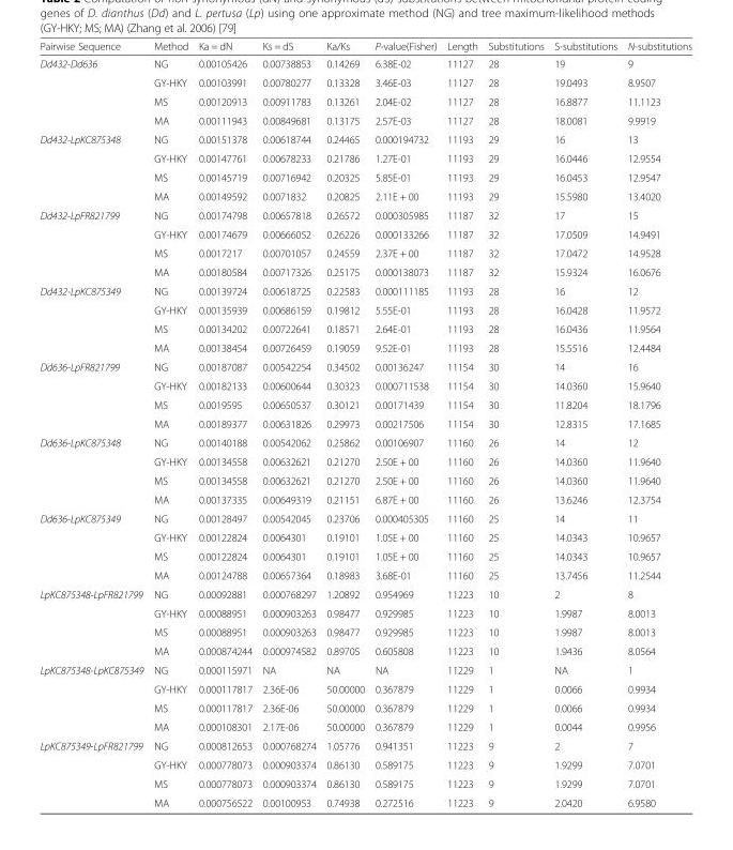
<table><thead><tr><td>Pairwise Sequence</td><td>Method</td><td>Ka = dN</td><td>Ks = dS</td><td>Ka/Ks</td><td>P-value(Fisher)</td><td>Length</td><td>Substitutions</td><td>S-substitutions</td><td>N-substitutions</td></tr></thead><tbody><tr><td rowspan="4">Dd432-Dd636</td><td>NG</td><td>0.00105426</td><td>0.00738853</td><td>0.14269</td><td>6.38E-02</td><td>11127</td><td>28</td><td>19</td><td>9</td></tr><tr><td>GY-HKY</td><td>0.00103991</td><td>0.00780277</td><td>0.13328</td><td>3.46E-03</td><td>11127</td><td>28</td><td>19.0493</td><td>8.9507</td></tr><tr><td>MS</td><td>0.00120913</td><td>0.00911783</td><td>0.13261</td><td>2.04E-02</td><td>11127</td><td>28</td><td>16.8877</td><td>11.1123</td></tr><tr><td>MA</td><td>0.00111943</td><td>0.00849681</td><td>0.13175</td><td>2.57E-03</td><td>11127</td><td>28</td><td>18.0081</td><td>9.9919</td></tr><tr><td rowspan="4">Dd432-LpKC875348</td><td>NG</td><td>0.00151378</td><td>0.00618744</td><td>0.24465</td><td>0.000194732</td><td>11193</td><td>29</td><td>16</td><td>13</td></tr><tr><td>GY-HKY</td><td>0.00147761</td><td>0.00678233</td><td>0.21786</td><td>1.27E-01</td><td>11193</td><td>29</td><td>16.0446</td><td>12.9554</td></tr><tr><td>MS</td><td>0.00145719</td><td>0.00716942</td><td>0.20325</td><td>5.85E-01</td><td>11193</td><td>29</td><td>16.0453</td><td>12.9547</td></tr><tr><td>MA</td><td>0.00149592</td><td>0.0071832</td><td>0.20825</td><td>2.11E + 00</td><td>11193</td><td>29</td><td>15.5980</td><td>13.4020</td></tr><tr><td rowspan="4">Dd432-LpFR821799</td><td>NG</td><td>0.00174798</td><td>0.00657818</td><td>0.26572</td><td>0.000305985</td><td>11187</td><td>32</td><td>17</td><td>15</td></tr><tr><td>GY-HKY</td><td>0.00174679</td><td>0.00666052</td><td>0.26226</td><td>0.000133266</td><td>11187</td><td>32</td><td>17.0509</td><td>14.9491</td></tr><tr><td>MS</td><td>0.0017217</td><td>0.00701057</td><td>0.24559</td><td>2.37E + 00</td><td>11187</td><td>32</td><td>17.0472</td><td>14.9528</td></tr><tr><td>MA</td><td>0.00180584</td><td>0.00717326</td><td>0.25175</td><td>0.000138073</td><td>11187</td><td>32</td><td>15.9324</td><td>16.0676</td></tr><tr><td rowspan="4">Dd432-LpKC875349</td><td>NG</td><td>0.00139724</td><td>0.00618725</td><td>0.22583</td><td>0.000111185</td><td>11193</td><td>28</td><td>16</td><td>12</td></tr><tr><td>GY-HKY</td><td>0.00135939</td><td>0.00686159</td><td>0.19812</td><td>5.55E-01</td><td>11193</td><td>28</td><td>16.0428</td><td>11.9572</td></tr><tr><td>MS</td><td>0.00134202</td><td>0.00722641</td><td>0.18571</td><td>2.64E-01</td><td>11193</td><td>28</td><td>16.0436</td><td>11.9564</td></tr><tr><td>MA</td><td>0.00138454</td><td>0.00726459</td><td>0.19059</td><td>9.52E-01</td><td>11193</td><td>28</td><td>15.5516</td><td>12.4484</td></tr><tr><td rowspan="4">Dd636-LpFR821799</td><td>NG</td><td>0.00187087</td><td>0.00542254</td><td>0.34502</td><td>0.00136247</td><td>11154</td><td>30</td><td>14</td><td>16</td></tr><tr><td>GY-HKY</td><td>0.00182133</td><td>0.00600644</td><td>0.30323</td><td>0.000711538</td><td>11154</td><td>30</td><td>14.0360</td><td>15.9640</td></tr><tr><td>MS</td><td>0.0019595</td><td>0.00650537</td><td>0.30121</td><td>0.00171439</td><td>11154</td><td>30</td><td>11.8204</td><td>18.1796</td></tr><tr><td>MA</td><td>0.00189377</td><td>0.00631826</td><td>0.29973</td><td>0.00217506</td><td>11154</td><td>30</td><td>12.8315</td><td>17.1685</td></tr><tr><td rowspan="4">Dd636-LpKC875348</td><td>NG</td><td>0.00140188</td><td>0.00542062</td><td>0.25862</td><td>0.00106907</td><td>11160</td><td>26</td><td>14</td><td>12</td></tr><tr><td>GY-HKY</td><td>0.00134558</td><td>0.00632621</td><td>0.21270</td><td>2.50E + 00</td><td>11160</td><td>26</td><td>14.0360</td><td>11.9640</td></tr><tr><td>MS</td><td>0.00134558</td><td>0.00632621</td><td>0.21270</td><td>2.50E + 00</td><td>11160</td><td>26</td><td>14.0360</td><td>11.9640</td></tr><tr><td>MA</td><td>0.00137335</td><td>0.00649319</td><td>0.21151</td><td>6.87E + 00</td><td>11160</td><td>26</td><td>13.6246</td><td>12.3754</td></tr><tr><td rowspan="4">Dd636-LpKC875349</td><td>NG</td><td>0.00128497</td><td>0.00542045</td><td>0.23706</td><td>0.000405305</td><td>11160</td><td>25</td><td>14</td><td>11</td></tr><tr><td>GY-HKY</td><td>0.00122824</td><td>0.0064301</td><td>0.19101</td><td>1.05E + 00</td><td>11160</td><td>25</td><td>14.0343</td><td>10.9657</td></tr><tr><td>MS</td><td>0.00122824</td><td>0.0064301</td><td>0.19101</td><td>1.05E + 00</td><td>11160</td><td>25</td><td>14.0343</td><td>10.9657</td></tr><tr><td>MA</td><td>0.00124788</td><td>0.00657364</td><td>0.18983</td><td>3.68E-01</td><td>11160</td><td>25</td><td>13.7456</td><td>11.2544</td></tr><tr><td rowspan="4">LpKC875348-LpFR821799</td><td>NG</td><td>0.00092881</td><td>0.000768297</td><td>1.20892</td><td>0.954969</td><td>11223</td><td>10</td><td>2</td><td>8</td></tr><tr><td>GY-HKY</td><td>0.00088951</td><td>0.000903263</td><td>0.98477</td><td>0.929985</td><td>11223</td><td>10</td><td>1.9987</td><td>8.0013</td></tr><tr><td>MS</td><td>0.00088951</td><td>0.000903263</td><td>0.98477</td><td>0.929985</td><td>11223</td><td>10</td><td>1.9987</td><td>8.0013</td></tr><tr><td>MA</td><td>0.000874244</td><td>0.000974582</td><td>0.89705</td><td>0.605808</td><td>11223</td><td>10</td><td>1.9436</td><td>8.0564</td></tr><tr><td rowspan="4">LpKC875348-LpKC875349</td><td>NG</td><td>0.000115971</td><td>NA</td><td>NA</td><td>NA</td><td>11229</td><td>1</td><td>NA</td><td>1</td></tr><tr><td>GY-HKY</td><td>0.000117817</td><td>2.36E-06</td><td>50.00000</td><td>0.367879</td><td>11229</td><td>1</td><td>0.0066</td><td>0.9934</td></tr><tr><td>MS</td><td>0.000117817</td><td>2.36E-06</td><td>50.00000</td><td>0.367879</td><td>11229</td><td>1</td><td>0.0066</td><td>0.9934</td></tr><tr><td>MA</td><td>0.000108301</td><td>2.17E-06</td><td>50.00000</td><td>0.367879</td><td>11229</td><td>1</td><td>0.0044</td><td>0.9956</td></tr><tr><td rowspan="4">LpKC875349-LpFR821799</td><td>NG</td><td>0.000812653</td><td>0.000768274</td><td>1.05776</td><td>0.941351</td><td>11223</td><td>9</td><td>2</td><td>7</td></tr><tr><td>GY-HKY</td><td>0.000778073</td><td>0.000903374</td><td>0.86130</td><td>0.589175</td><td>11223</td><td>9</td><td>1.9299</td><td>7.0701</td></tr><tr><td>MS</td><td>0.000778073</td><td>0.000903374</td><td>0.86130</td><td>0.589175</td><td>11223</td><td>9</td><td>1.9299</td><td>7.0701</td></tr><tr><td>MA</td><td>0.000756522</td><td>0.00100953</td><td>0.74938</td><td>0.272516</td><td>11223</td><td>9</td><td>2.0420</td><td>6.9580</td></tr></tbody></table>